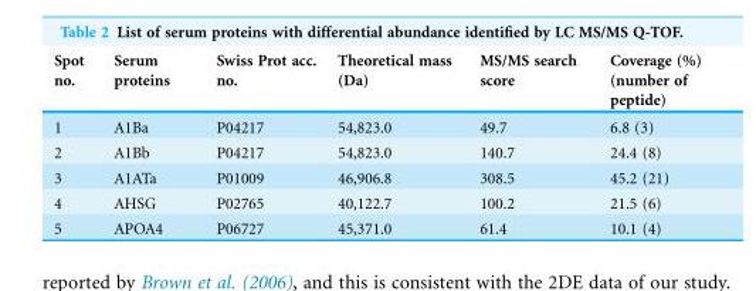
<table><thead><tr><td>Spot no.</td><td>Serum proteins</td><td>Swiss Prot acc. no.</td><td>Theoretical mass (Da)</td><td>MS/MS search score</td><td>Coverage (%) (number of peptide)</td></tr></thead><tbody><tr><td>1</td><td>A1Ba</td><td>P04217</td><td>54,823.0</td><td>49.7</td><td>6.8 (3)</td></tr><tr><td>2</td><td>A1Bb</td><td>P04217</td><td>54,823.0</td><td>140.7</td><td>24.4 (8)</td></tr><tr><td>3</td><td>A1ATa</td><td>P01009</td><td>46,906.8</td><td>308.5</td><td>45.2 (21)</td></tr><tr><td>4</td><td>AHSG</td><td>P02765</td><td>40,122.7</td><td>100.2</td><td>21.5 (6)</td></tr><tr><td>5</td><td>APOA4</td><td>P06727</td><td>45,371.0</td><td>61.4</td><td>10.1 (4)</td></tr></tbody></table>